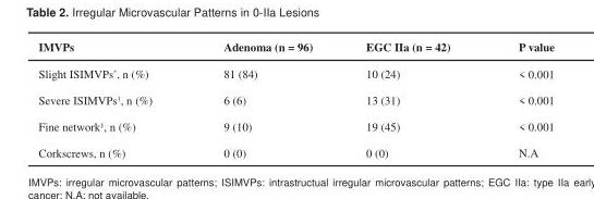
<table><thead><tr><td>IMVPs</td><td>Adenoma (n = 96)</td><td>EGC IIa (n = 42)</td><td>P value</td></tr></thead><tbody><tr><td>Slight ISIMVPs*, n (%)</td><td>81 (84)</td><td>10 (24)</td><td>&lt; 0.001</td></tr><tr><td>Severe ISIMVPs†, n (%)</td><td>6 (6)</td><td>13 (31)</td><td>&lt; 0.001</td></tr><tr><td>Fine network‡, n (%)</td><td>9 (10)</td><td>19 (45)</td><td>&lt; 0.001</td></tr><tr><td>Corkscrews, n (%)</td><td>0 (0)</td><td>0 (0)</td><td>N.A</td></tr></tbody></table>